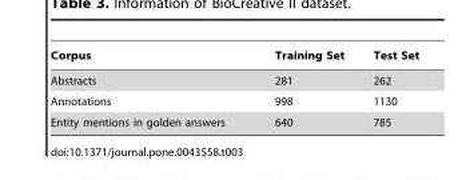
<table><thead><tr><td>Corpus</td><td>Training Set</td><td>Test Set</td></tr></thead><tbody><tr><td>Abstracts</td><td>281</td><td>262</td></tr><tr><td>Annotations</td><td>998</td><td>1130</td></tr><tr><td>Entity mentions in golden answers</td><td>640</td><td>785</td></tr></tbody></table>